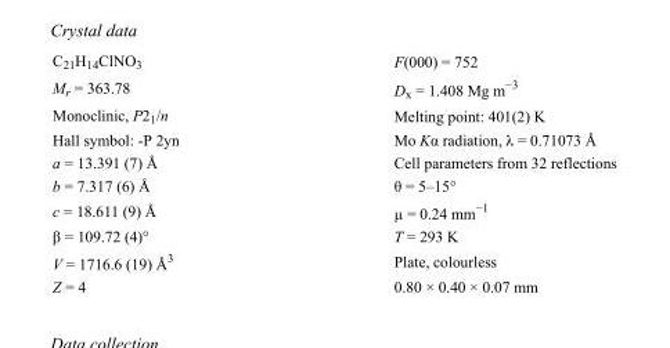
<table><tbody><tr><td>C<sub>21</sub>H<sub>14</sub>ClNO<sub>3</sub></td><td>F(000) = 752</td></tr><tr><td>M<sub>r</sub> = 363.78</td><td>D<sub>x</sub> = 1.408 Mg m<sup>−3</sup></td></tr><tr><td>Monoclinic, P2<sub>1</sub>/n</td><td>Melting point: 401(2) K</td></tr><tr><td>Hall symbol: -P 2yn</td><td>Mo Kα radiation, λ = 0.71073 Å</td></tr><tr><td>a = 13.391 (7) Å</td><td>Cell parameters from 32 reflections</td></tr><tr><td>b = 7.317 (6) Å</td><td>θ = 5–15°</td></tr><tr><td>c = 18.611 (9) Å</td><td>µ = 0.24 mm<sup>−1</sup></td></tr><tr><td>β = 109.72 (4)°</td><td>T = 293 K</td></tr><tr><td>V = 1716.6 (19) Å<sup>3</sup></td><td>Plate, colourless</td></tr><tr><td>Z = 4</td><td>0.80 × 0.40 × 0.07 mm</td></tr></tbody></table>